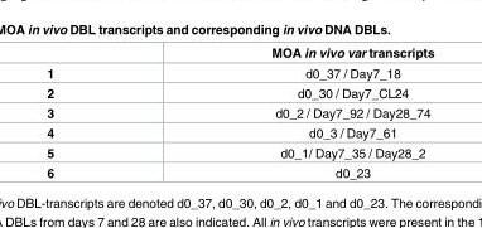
<table><thead><tr><td></td><td>MOA in vivo var transcripts</td></tr></thead><tbody><tr><td>1</td><td>d0_37 / Day7_18</td></tr><tr><td>2</td><td>d0_30 / Day7_CL24</td></tr><tr><td>3</td><td>d0_2 / Day7_92 / Day28_74</td></tr><tr><td>4</td><td>d0_3 / Day7_61</td></tr><tr><td>5</td><td>d0_1/ Day7_35 / Day28_2</td></tr><tr><td>6</td><td>d0_23</td></tr></tbody></table>